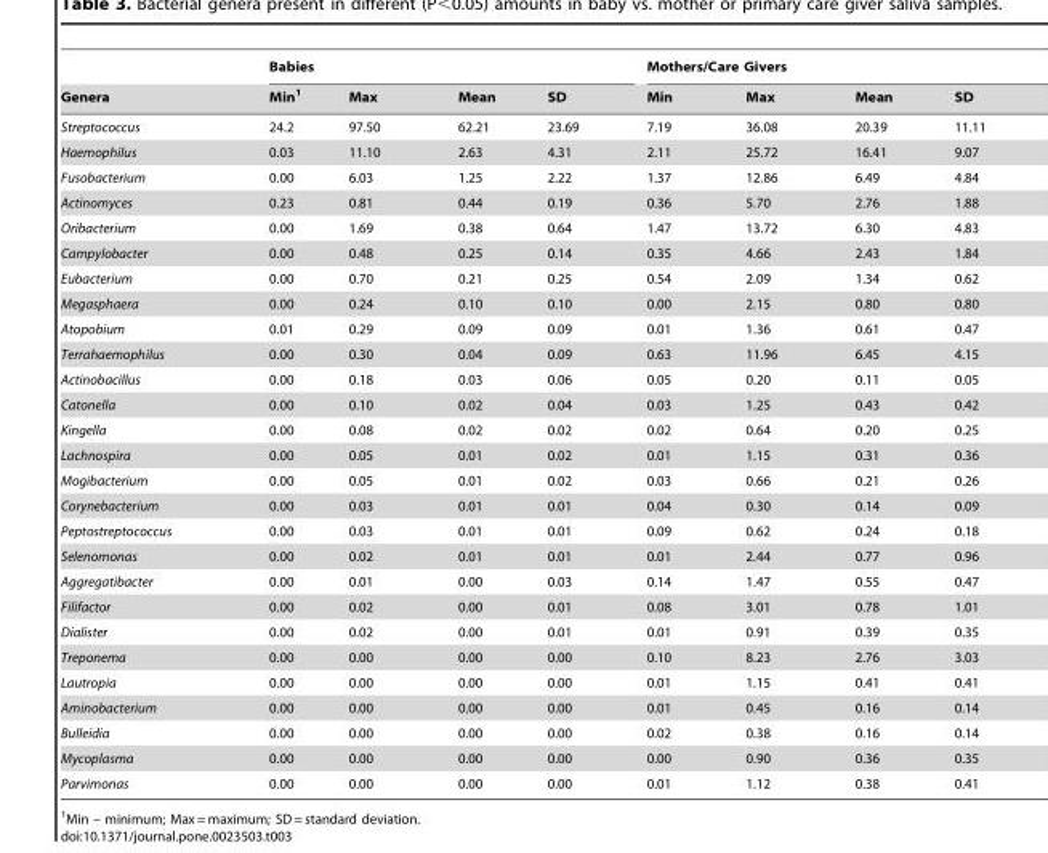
<table><thead><tr><td rowspan="2">Genera</td><td colspan="4">Babies</td><td colspan="4">Mothers/Care Givers</td></tr><tr><td>Min<sup>1</sup></td><td>Max</td><td>Mean</td><td>SD</td><td>Min</td><td>Max</td><td>Mean</td><td>SD</td></tr></thead><tbody><tr><td>Streptococcus</td><td>24.2</td><td>97.50</td><td>62.21</td><td>23.69</td><td>7.19</td><td>36.08</td><td>20.39</td><td>11.11</td></tr><tr><td>Haemophilus</td><td>0.03</td><td>11.10</td><td>2.63</td><td>4.31</td><td>2.11</td><td>25.72</td><td>16.41</td><td>9.07</td></tr><tr><td>Fusobacterium</td><td>0.00</td><td>6.03</td><td>1.25</td><td>2.22</td><td>1.37</td><td>12.86</td><td>6.49</td><td>4.84</td></tr><tr><td>Actinomyces</td><td>0.23</td><td>0.81</td><td>0.44</td><td>0.19</td><td>0.36</td><td>5.70</td><td>2.76</td><td>1.88</td></tr><tr><td>Oribacterium</td><td>0.00</td><td>1.69</td><td>0.38</td><td>0.64</td><td>1.47</td><td>13.72</td><td>6.30</td><td>4.83</td></tr><tr><td>Campylobacter</td><td>0.00</td><td>0.48</td><td>0.25</td><td>0.14</td><td>0.35</td><td>4.66</td><td>2.43</td><td>1.84</td></tr><tr><td>Eubacterium</td><td>0.00</td><td>0.70</td><td>0.21</td><td>0.25</td><td>0.54</td><td>2.09</td><td>1.34</td><td>0.62</td></tr><tr><td>Megasphaera</td><td>0.00</td><td>0.24</td><td>0.10</td><td>0.10</td><td>0.00</td><td>2.15</td><td>0.80</td><td>0.80</td></tr><tr><td>Atopobium</td><td>0.01</td><td>0.29</td><td>0.09</td><td>0.09</td><td>0.01</td><td>1.36</td><td>0.61</td><td>0.47</td></tr><tr><td>Terrahaemophilus</td><td>0.00</td><td>0.30</td><td>0.04</td><td>0.09</td><td>0.63</td><td>11.96</td><td>6.45</td><td>4.15</td></tr><tr><td>Actinobacillus</td><td>0.00</td><td>0.18</td><td>0.03</td><td>0.06</td><td>0.05</td><td>0.20</td><td>0.11</td><td>0.05</td></tr><tr><td>Catonella</td><td>0.00</td><td>0.10</td><td>0.02</td><td>0.04</td><td>0.03</td><td>1.25</td><td>0.43</td><td>0.42</td></tr><tr><td>Kingella</td><td>0.00</td><td>0.08</td><td>0.02</td><td>0.02</td><td>0.02</td><td>0.64</td><td>0.20</td><td>0.25</td></tr><tr><td>Lachnospira</td><td>0.00</td><td>0.05</td><td>0.01</td><td>0.02</td><td>0.01</td><td>1.15</td><td>0.31</td><td>0.36</td></tr><tr><td>Mogibacterium</td><td>0.00</td><td>0.05</td><td>0.01</td><td>0.02</td><td>0.03</td><td>0.66</td><td>0.21</td><td>0.26</td></tr><tr><td>Corynebacterium</td><td>0.00</td><td>0.03</td><td>0.01</td><td>0.01</td><td>0.04</td><td>0.30</td><td>0.14</td><td>0.09</td></tr><tr><td>Peptostreptococcus</td><td>0.00</td><td>0.03</td><td>0.01</td><td>0.01</td><td>0.09</td><td>0.62</td><td>0.24</td><td>0.18</td></tr><tr><td>Selenomonas</td><td>0.00</td><td>0.02</td><td>0.01</td><td>0.01</td><td>0.01</td><td>2.44</td><td>0.77</td><td>0.96</td></tr><tr><td>Aggregatibacter</td><td>0.00</td><td>0.01</td><td>0.00</td><td>0.03</td><td>0.14</td><td>1.47</td><td>0.55</td><td>0.47</td></tr><tr><td>Filifactor</td><td>0.00</td><td>0.02</td><td>0.00</td><td>0.01</td><td>0.08</td><td>3.01</td><td>0.78</td><td>1.01</td></tr><tr><td>Dialister</td><td>0.00</td><td>0.02</td><td>0.00</td><td>0.01</td><td>0.01</td><td>0.91</td><td>0.39</td><td>0.35</td></tr><tr><td>Treponema</td><td>0.00</td><td>0.00</td><td>0.00</td><td>0.00</td><td>0.10</td><td>8.23</td><td>2.76</td><td>3.03</td></tr><tr><td>Lautropia</td><td>0.00</td><td>0.00</td><td>0.00</td><td>0.00</td><td>0.01</td><td>1.15</td><td>0.41</td><td>0.41</td></tr><tr><td>Aminobacterium</td><td>0.00</td><td>0.00</td><td>0.00</td><td>0.00</td><td>0.01</td><td>0.45</td><td>0.16</td><td>0.14</td></tr><tr><td>Bulleidia</td><td>0.00</td><td>0.00</td><td>0.00</td><td>0.00</td><td>0.02</td><td>0.38</td><td>0.16</td><td>0.14</td></tr><tr><td>Mycoplasma</td><td>0.00</td><td>0.00</td><td>0.00</td><td>0.00</td><td>0.00</td><td>0.90</td><td>0.36</td><td>0.35</td></tr><tr><td>Parvimonas</td><td>0.00</td><td>0.00</td><td>0.00</td><td>0.00</td><td>0.01</td><td>1.12</td><td>0.38</td><td>0.41</td></tr></tbody></table>